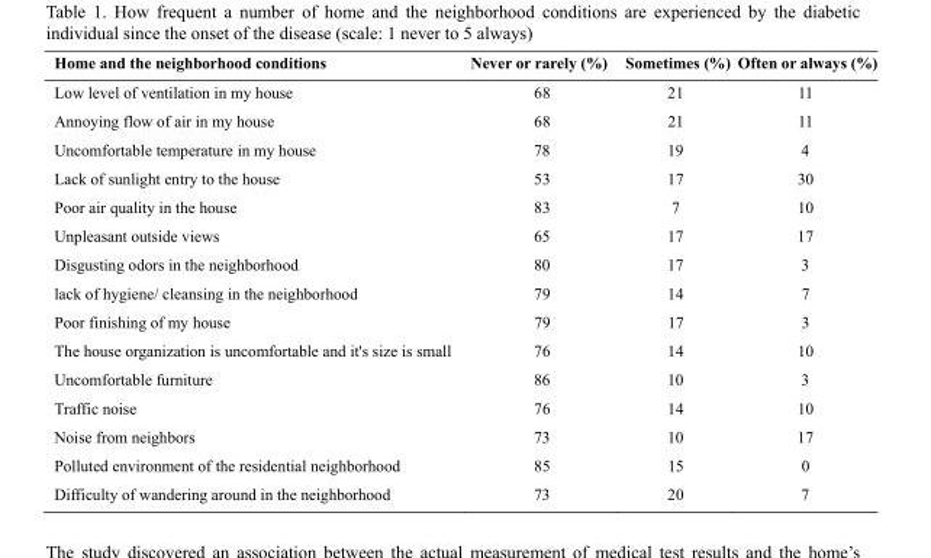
<table><thead><tr><td>Home and the neighborhood conditions</td><td>Never or rarely (%)</td><td>Sometimes (%)</td><td>Often or always (%)</td></tr></thead><tbody><tr><td>Low level of ventilation in my house</td><td>68</td><td>21</td><td>11</td></tr><tr><td>Annoying flow of air in my house</td><td>68</td><td>21</td><td>11</td></tr><tr><td>Uncomfortable temperature in my house</td><td>78</td><td>19</td><td>4</td></tr><tr><td>Lack of sunlight entry to the house</td><td>53</td><td>17</td><td>30</td></tr><tr><td>Poor air quality in the house</td><td>83</td><td>7</td><td>10</td></tr><tr><td>Unpleasant outside views</td><td>65</td><td>17</td><td>17</td></tr><tr><td>Disgusting odors in the neighborhood</td><td>80</td><td>17</td><td>3</td></tr><tr><td>lack of hygiene/ cleansing in the neighborhood</td><td>79</td><td>14</td><td>7</td></tr><tr><td>Poor finishing of my house</td><td>79</td><td>17</td><td>3</td></tr><tr><td>The house organization is uncomfortable and it&#x27;s size is small</td><td>76</td><td>14</td><td>10</td></tr><tr><td>Uncomfortable furniture</td><td>86</td><td>10</td><td>3</td></tr><tr><td>Traffic noise</td><td>76</td><td>14</td><td>10</td></tr><tr><td>Noise from neighbors</td><td>73</td><td>10</td><td>17</td></tr><tr><td>Polluted environment of the residential neighborhood</td><td>85</td><td>15</td><td>0</td></tr><tr><td>Difficulty of wandering around in the neighborhood</td><td>73</td><td>20</td><td>7</td></tr></tbody></table>